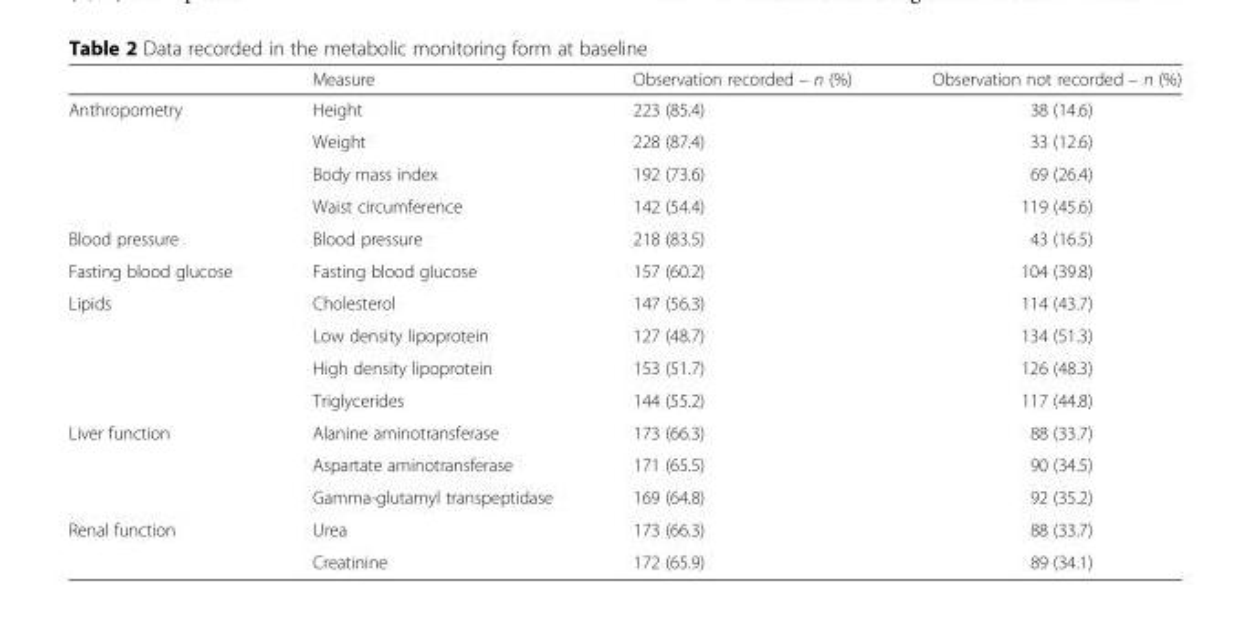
<table><thead><tr><td></td><td>Measure</td><td>Observation recorded – n (%)</td><td>Observation not recorded – n (%)</td></tr></thead><tbody><tr><td rowspan="4">Anthropometry</td><td>Height</td><td>223 (85.4)</td><td>38 (14.6)</td></tr><tr><td>Weight</td><td>228 (87.4)</td><td>33 (12.6)</td></tr><tr><td>Body mass index</td><td>192 (73.6)</td><td>69 (26.4)</td></tr><tr><td>Waist circumference</td><td>142 (54.4)</td><td>119 (45.6)</td></tr><tr><td>Blood pressure</td><td>Blood pressure</td><td>218 (83.5)</td><td>43 (16.5)</td></tr><tr><td>Fasting blood glucose</td><td>Fasting blood glucose</td><td>157 (60.2)</td><td>104 (39.8)</td></tr><tr><td rowspan="4">Lipids</td><td>Cholesterol</td><td>147 (56.3)</td><td>114 (43.7)</td></tr><tr><td>Low density lipoprotein</td><td>127 (48.7)</td><td>134 (51.3)</td></tr><tr><td>High density lipoprotein</td><td>153 (51.7)</td><td>126 (48.3)</td></tr><tr><td>Triglycerides</td><td>144 (55.2)</td><td>117 (44.8)</td></tr><tr><td rowspan="3">Liver function</td><td>Alanine aminotransferase</td><td>173 (66.3)</td><td>88 (33.7)</td></tr><tr><td>Aspartate aminotransferase</td><td>171 (65.5)</td><td>90 (34.5)</td></tr><tr><td>Gamma-glutamyl transpeptidase</td><td>169 (64.8)</td><td>92 (35.2)</td></tr><tr><td rowspan="2">Renal function</td><td>Urea</td><td>173 (66.3)</td><td>88 (33.7)</td></tr><tr><td>Creatinine</td><td>172 (65.9)</td><td>89 (34.1)</td></tr></tbody></table>